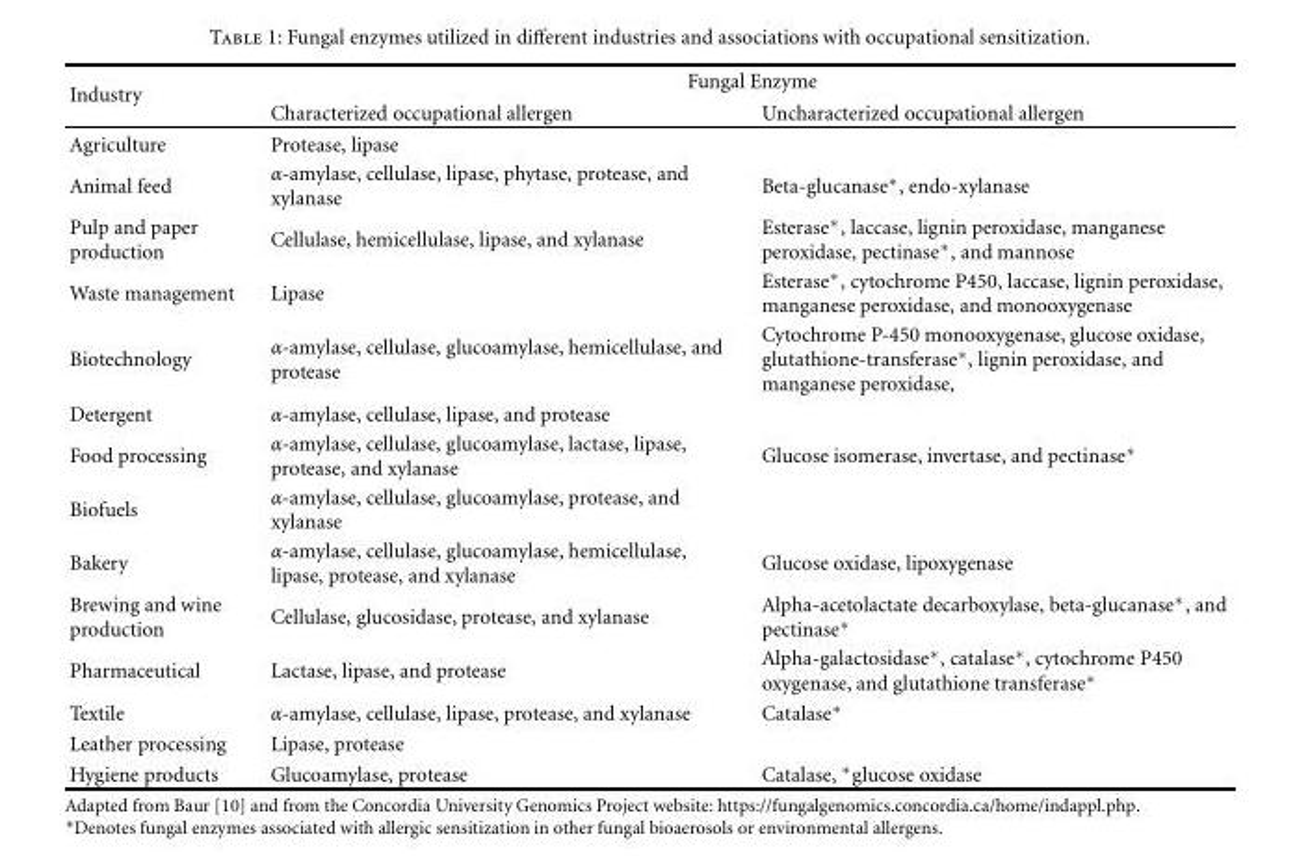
<table><thead><tr><td rowspan="2">Industry</td><td colspan="2">Fungal Enzyme</td></tr><tr><td>Characterized occupational allergen</td><td>Uncharacterized occupational allergen</td></tr></thead><tbody><tr><td>Agriculture</td><td>Protease, lipase</td><td></td></tr><tr><td>Animal feed</td><td>α-amylase, cellulase, lipase, phytase, protease, and xylanase</td><td>Beta-glucanase∗, endo-xylanase</td></tr><tr><td>Pulp and paper production</td><td>Cellulase, hemicellulase, lipase, and xylanase</td><td>Esterase∗, laccase, lignin peroxidase, manganese peroxidase, pectinase∗, and mannose</td></tr><tr><td>Waste management</td><td>Lipase</td><td>Esterase∗, cytochrome P450, laccase, lignin peroxidase, manganese peroxidase, and monooxygenase</td></tr><tr><td>Biotechnology</td><td>α-amylase, cellulase, glucoamylase, hemicellulase, and protease</td><td>Cytochrome P-450 monooxygenase, glucose oxidase, glutathione-transferase∗, lignin peroxidase, and manganese peroxidase,</td></tr><tr><td>Detergent</td><td>α-amylase, cellulase, lipase, and protease</td><td></td></tr><tr><td>Food processing</td><td>α-amylase, cellulase, glucoamylase, lactase, lipase, protease, and xylanase</td><td>Glucose isomerase, invertase, and pectinase∗</td></tr><tr><td>Biofuels</td><td>α-amylase, cellulase, glucoamylase, protease, and xylanase</td><td></td></tr><tr><td>Bakery</td><td>α-amylase, cellulase, glucoamylase, hemicellulase, lipase, protease, and xylanase</td><td>Glucose oxidase, lipoxygenase</td></tr><tr><td>Brewing and wine production</td><td>Cellulase, glucosidase, protease, and xylanase</td><td>Alpha-acetolactate decarboxylase, beta-glucanase∗, and pectinase∗</td></tr><tr><td>Pharmaceutical</td><td>Lactase, lipase, and protease</td><td>Alpha-galactosidase∗, catalase∗, cytochrome P450 oxygenase, and glutathione transferase∗</td></tr><tr><td>Textile</td><td>α-amylase, cellulase, lipase, protease, and xylanase</td><td>Catalase∗</td></tr><tr><td>Leather processing</td><td>Lipase, protease</td><td></td></tr><tr><td>Hygiene products</td><td>Glucoamylase, protease</td><td>Catalase, ∗glucose oxidase</td></tr></tbody></table>